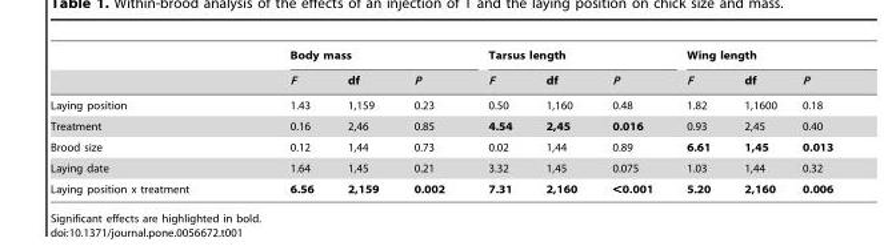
<table><thead><tr><td rowspan="2"></td><td colspan="3">Body mass</td><td colspan="3">Tarsus length</td><td colspan="3">Wing length</td></tr><tr><td>F</td><td>df</td><td>P</td><td>F</td><td>df</td><td>P</td><td>F</td><td>df</td><td>P</td></tr></thead><tbody><tr><td>Laying position</td><td>1.43</td><td>1,159</td><td>0.23</td><td>0.50</td><td>1,160</td><td>0.48</td><td>1.82</td><td>1,1600</td><td>0.18</td></tr><tr><td>Treatment</td><td>0.16</td><td>2,46</td><td>0.85</td><td>4.54</td><td>2,45</td><td>0.016</td><td>0.93</td><td>2,45</td><td>0.40</td></tr><tr><td>Brood size</td><td>0.12</td><td>1,44</td><td>0.73</td><td>0.02</td><td>1,44</td><td>0.89</td><td>6.61</td><td>1,45</td><td>0.013</td></tr><tr><td>Laying date</td><td>1.64</td><td>1,45</td><td>0.21</td><td>3.32</td><td>1,45</td><td>0.075</td><td>1.03</td><td>1,44</td><td>0.32</td></tr><tr><td>Laying position x treatment</td><td>6.56</td><td>2,159</td><td>0.002</td><td>7.31</td><td>2,160</td><td>&lt;0.001</td><td>5.20</td><td>2,160</td><td>0.006</td></tr></tbody></table>